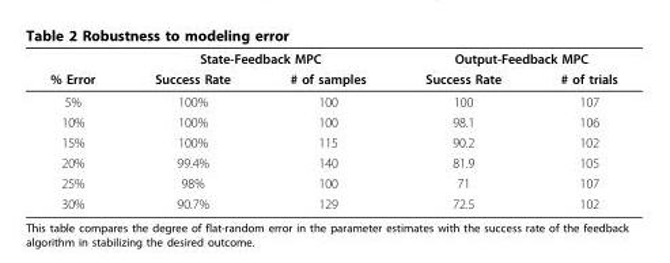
<table><thead><tr><td rowspan="2">% Error</td><td colspan="2">State-Feedback MPC</td><td colspan="2">Output-Feedback MPC</td></tr><tr><td>Success Rate</td><td># of samples</td><td>Success Rate</td><td># of trials</td></tr></thead><tbody><tr><td>5%</td><td>100%</td><td>100</td><td>100</td><td>107</td></tr><tr><td>10%</td><td>100%</td><td>100</td><td>98.1</td><td>106</td></tr><tr><td>15%</td><td>100%</td><td>115</td><td>90.2</td><td>102</td></tr><tr><td>20%</td><td>99.4%</td><td>140</td><td>81.9</td><td>105</td></tr><tr><td>25%</td><td>98%</td><td>100</td><td>71</td><td>107</td></tr><tr><td>30%</td><td>90.7%</td><td>129</td><td>72.5</td><td>102</td></tr></tbody></table>